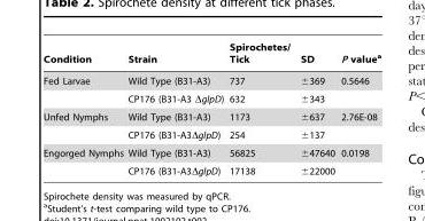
<table><thead><tr><td>Condition</td><td>Strain</td><td>Spirochetes/ Tick</td><td>SD</td><td>P value<sup>a</sup></td></tr></thead><tbody><tr><td rowspan="2">Fed Larvae</td><td>Wild Type (B31-A3)</td><td>737</td><td>±369</td><td>0.5646</td></tr><tr><td>CP176 (B31-A3 ΔglpD)</td><td>632</td><td>±343</td><td></td></tr><tr><td rowspan="2">Unfed Nymphs</td><td>Wild Type (B31-A3)</td><td>1173</td><td>±637</td><td>2.76E-08</td></tr><tr><td>CP176 (B31-A3ΔglpD)</td><td>254</td><td>±137</td><td></td></tr><tr><td rowspan="2">Engorged Nymphs</td><td>Wild Type (B31-A3)</td><td>56825</td><td>±47640</td><td>0.0198</td></tr><tr><td>CP176 (B31-A3ΔglpD)</td><td>17138</td><td>±22000</td><td></td></tr></tbody></table>